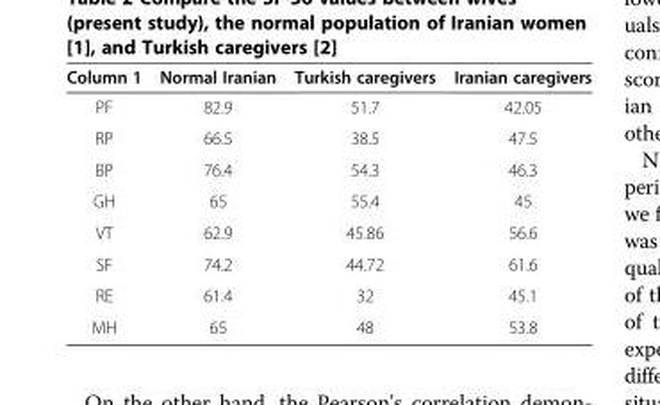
<table><thead><tr><td>Column 1</td><td>Normal Iranian</td><td>Turkish caregivers</td><td>Iranian caregivers</td></tr></thead><tbody><tr><td>PF</td><td>82.9</td><td>51.7</td><td>42.05</td></tr><tr><td>RP</td><td>66.5</td><td>38.5</td><td>47.5</td></tr><tr><td>BP</td><td>76.4</td><td>54.3</td><td>46.3</td></tr><tr><td>GH</td><td>65</td><td>55.4</td><td>45</td></tr><tr><td>VT</td><td>62.9</td><td>45.86</td><td>56.6</td></tr><tr><td>SF</td><td>74.2</td><td>44.72</td><td>61.6</td></tr><tr><td>RE</td><td>61.4</td><td>32</td><td>45.1</td></tr><tr><td>MH</td><td>65</td><td>48</td><td>53.8</td></tr></tbody></table>